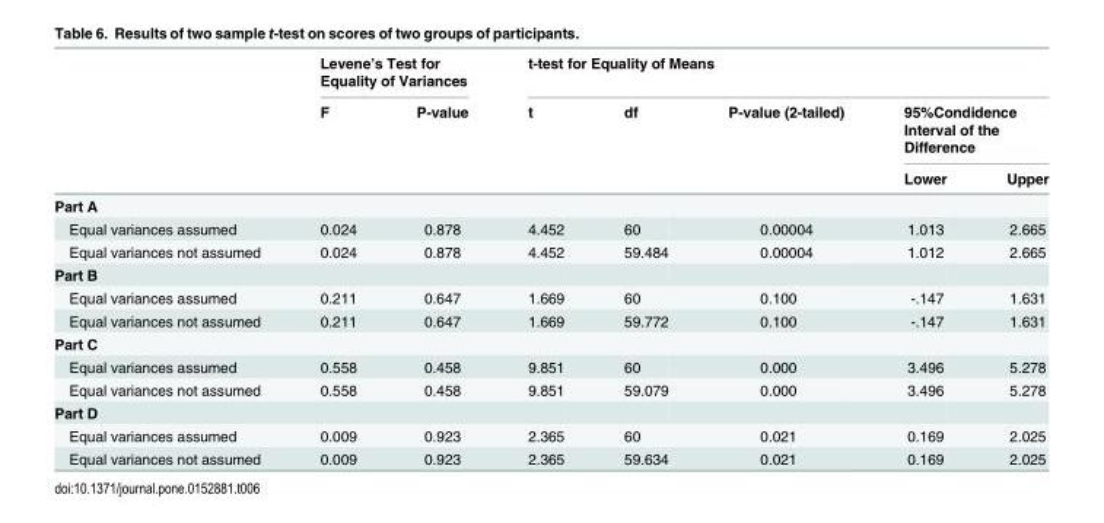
<table><thead><tr><td rowspan="3"></td><td colspan="2">Levene’s Test for Equality of Variances</td><td colspan="5">t-test for Equality of Means</td></tr><tr><td rowspan="2">F</td><td rowspan="2">P-value</td><td rowspan="2">t</td><td rowspan="2">df</td><td rowspan="2">P-value (2-tailed)</td><td colspan="2">95%Condidence Interval of the Difference</td></tr><tr><td>Lower</td><td>Upper</td></tr></thead><tbody><tr><td colspan="8">Part A</td></tr><tr><td>Equal variances assumed</td><td>0.024</td><td>0.878</td><td>4.452</td><td>60</td><td>0.00004</td><td>1.013</td><td>2.665</td></tr><tr><td>Equal variances not assumed</td><td>0.024</td><td>0.878</td><td>4.452</td><td>59.484</td><td>0.00004</td><td>1.012</td><td>2.665</td></tr><tr><td colspan="8">Part B</td></tr><tr><td>Equal variances assumed</td><td>0.211</td><td>0.647</td><td>1.669</td><td>60</td><td>0.100</td><td>-.147</td><td>1.631</td></tr><tr><td>Equal variances not assumed</td><td>0.211</td><td>0.647</td><td>1.669</td><td>59.772</td><td>0.100</td><td>-.147</td><td>1.631</td></tr><tr><td colspan="8">Part C</td></tr><tr><td>Equal variances assumed</td><td>0.558</td><td>0.458</td><td>9.851</td><td>60</td><td>0.000</td><td>3.496</td><td>5.278</td></tr><tr><td>Equal variances not assumed</td><td>0.558</td><td>0.458</td><td>9.851</td><td>59.079</td><td>0.000</td><td>3.496</td><td>5.278</td></tr><tr><td colspan="8">Part D</td></tr><tr><td>Equal variances assumed</td><td>0.009</td><td>0.923</td><td>2.365</td><td>60</td><td>0.021</td><td>0.169</td><td>2.025</td></tr><tr><td>Equal variances not assumed</td><td>0.009</td><td>0.923</td><td>2.365</td><td>59.634</td><td>0.021</td><td>0.169</td><td>2.025</td></tr></tbody></table>